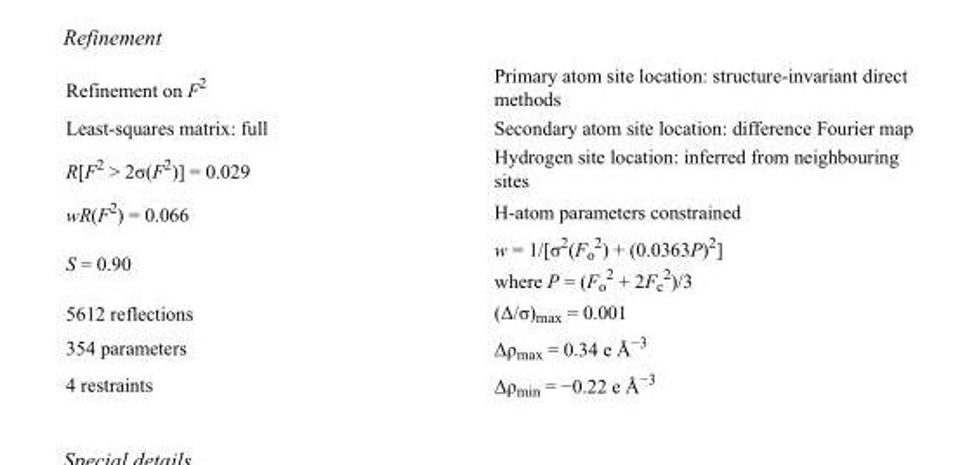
<table><tbody><tr><td>Refinement on F<sup>2</sup></td><td>Primary atom site location: structure-invariant direct methods</td></tr><tr><td>Least-squares matrix: full</td><td>Secondary atom site location: difference Fourier map</td></tr><tr><td>R[F<sup>2</sup> &gt; 2σ(F<sup>2</sup>)] = 0.029</td><td>Hydrogen site location: inferred from neighbouring sites</td></tr><tr><td>wR(F<sup>2</sup>) = 0.066</td><td>H-atom parameters constrained</td></tr><tr><td>S = 0.90</td><td>w = 1/[σ<sup>2</sup>(F<sub>o</sub> <sup>2</sup>) + (0.0363P)<sup>2</sup>] where P = (F<sub>o</sub> <sup>2</sup> + 2F<sub>c</sub> <sup>2</sup>)/3</td></tr><tr><td>5612 reflections</td><td>(Δ/σ)<sub>max</sub> = 0.001</td></tr><tr><td>354 parameters</td><td>Δρ<sub>max</sub> = 0.34 e Å<sup>−3</sup></td></tr><tr><td>4 restraints</td><td>Δρ<sub>min</sub> = −0.22 e Å<sup>−3</sup></td></tr></tbody></table>